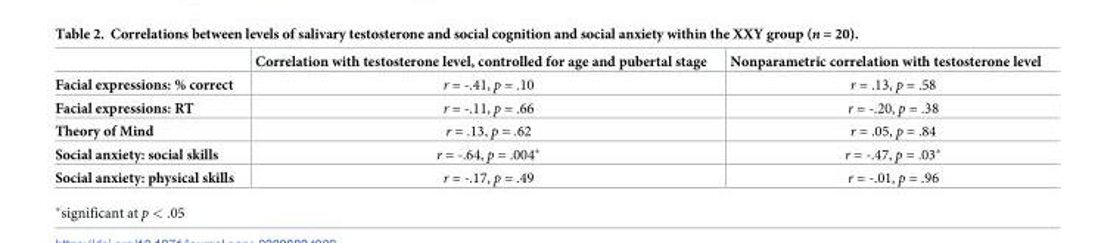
<table><thead><tr><td></td><td>Correlation with testosterone level, controlled for age and pubertal stage</td><td>Nonparametric correlation with testosterone level</td></tr></thead><tbody><tr><td>Facial expressions: % correct</td><td>r = -.41, p = .10</td><td>r = .13, p = .58</td></tr><tr><td>Facial expressions: RT</td><td>r = -.11, p = .66</td><td>r = -.20, p = .38</td></tr><tr><td>Theory of Mind</td><td>r = .13, p = .62</td><td>r = .05, p = .84</td></tr><tr><td>Social anxiety: social skills</td><td>r = -.64, p = .004*</td><td>r = -.47, p = .03*</td></tr><tr><td>Social anxiety: physical skills</td><td>r = -.17, p = .49</td><td>r = -.01, p = .96</td></tr></tbody></table>